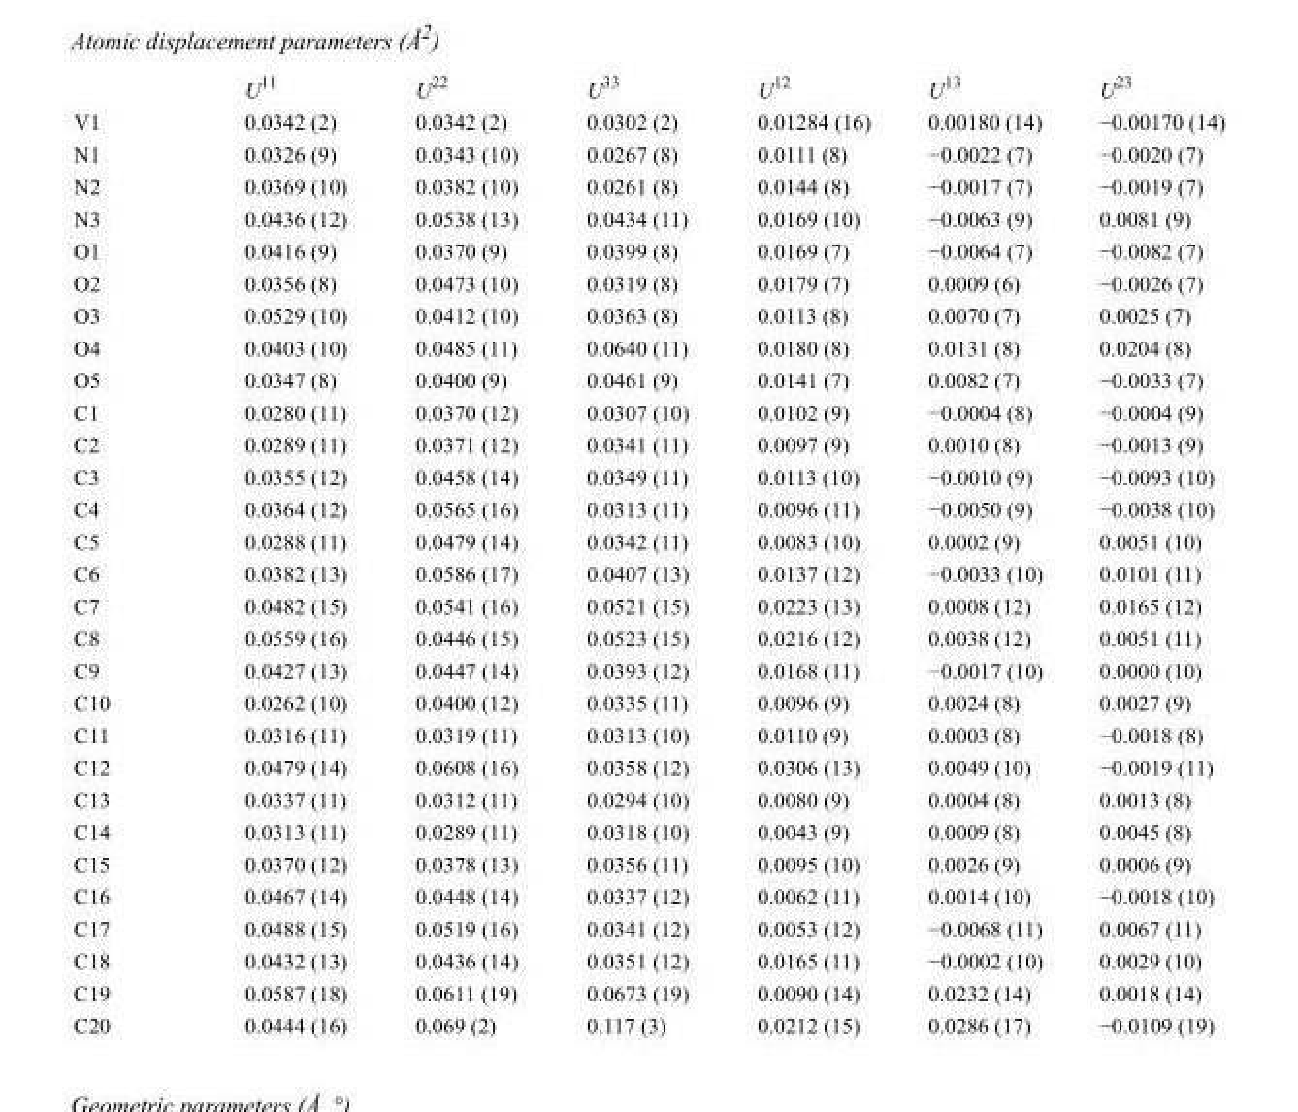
<table><thead><tr><td></td><td>U<sup>11</sup></td><td>U<sup>22</sup></td><td>U<sup>33</sup></td><td>U<sup>12</sup></td><td>U<sup>13</sup></td><td>U<sup>23</sup></td></tr></thead><tbody><tr><td>V1</td><td>0.0342 (2)</td><td>0.0342 (2)</td><td>0.0302 (2)</td><td>0.01284 (16)</td><td>0.00180 (14)</td><td>−0.00170 (14)</td></tr><tr><td>N1</td><td>0.0326 (9)</td><td>0.0343 (10)</td><td>0.0267 (8)</td><td>0.0111 (8)</td><td>−0.0022 (7)</td><td>−0.0020 (7)</td></tr><tr><td>N2</td><td>0.0369 (10)</td><td>0.0382 (10)</td><td>0.0261 (8)</td><td>0.0144 (8)</td><td>−0.0017 (7)</td><td>−0.0019 (7)</td></tr><tr><td>N3</td><td>0.0436 (12)</td><td>0.0538 (13)</td><td>0.0434 (11)</td><td>0.0169 (10)</td><td>−0.0063 (9)</td><td>0.0081 (9)</td></tr><tr><td>O1</td><td>0.0416 (9)</td><td>0.0370 (9)</td><td>0.0399 (8)</td><td>0.0169 (7)</td><td>−0.0064 (7)</td><td>−0.0082 (7)</td></tr><tr><td>O2</td><td>0.0356 (8)</td><td>0.0473 (10)</td><td>0.0319 (8)</td><td>0.0179 (7)</td><td>0.0009 (6)</td><td>−0.0026 (7)</td></tr><tr><td>O3</td><td>0.0529 (10)</td><td>0.0412 (10)</td><td>0.0363 (8)</td><td>0.0113 (8)</td><td>0.0070 (7)</td><td>0.0025 (7)</td></tr><tr><td>O4</td><td>0.0403 (10)</td><td>0.0485 (11)</td><td>0.0640 (11)</td><td>0.0180 (8)</td><td>0.0131 (8)</td><td>0.0204 (8)</td></tr><tr><td>O5</td><td>0.0347 (8)</td><td>0.0400 (9)</td><td>0.0461 (9)</td><td>0.0141 (7)</td><td>0.0082 (7)</td><td>−0.0033 (7)</td></tr><tr><td>C1</td><td>0.0280 (11)</td><td>0.0370 (12)</td><td>0.0307 (10)</td><td>0.0102 (9)</td><td>−0.0004 (8)</td><td>−0.0004 (9)</td></tr><tr><td>C2</td><td>0.0289 (11)</td><td>0.0371 (12)</td><td>0.0341 (11)</td><td>0.0097 (9)</td><td>0.0010 (8)</td><td>−0.0013 (9)</td></tr><tr><td>C3</td><td>0.0355 (12)</td><td>0.0458 (14)</td><td>0.0349 (11)</td><td>0.0113 (10)</td><td>−0.0010 (9)</td><td>−0.0093 (10)</td></tr><tr><td>C4</td><td>0.0364 (12)</td><td>0.0565 (16)</td><td>0.0313 (11)</td><td>0.0096 (11)</td><td>−0.0050 (9)</td><td>−0.0038 (10)</td></tr><tr><td>C5</td><td>0.0288 (11)</td><td>0.0479 (14)</td><td>0.0342 (11)</td><td>0.0083 (10)</td><td>0.0002 (9)</td><td>0.0051 (10)</td></tr><tr><td>C6</td><td>0.0382 (13)</td><td>0.0586 (17)</td><td>0.0407 (13)</td><td>0.0137 (12)</td><td>−0.0033 (10)</td><td>0.0101 (11)</td></tr><tr><td>C7</td><td>0.0482 (15)</td><td>0.0541 (16)</td><td>0.0521 (15)</td><td>0.0223 (13)</td><td>0.0008 (12)</td><td>0.0165 (12)</td></tr><tr><td>C8</td><td>0.0559 (16)</td><td>0.0446 (15)</td><td>0.0523 (15)</td><td>0.0216 (12)</td><td>0.0038 (12)</td><td>0.0051 (11)</td></tr><tr><td>C9</td><td>0.0427 (13)</td><td>0.0447 (14)</td><td>0.0393 (12)</td><td>0.0168 (11)</td><td>−0.0017 (10)</td><td>0.0000 (10)</td></tr><tr><td>C10</td><td>0.0262 (10)</td><td>0.0400 (12)</td><td>0.0335 (11)</td><td>0.0096 (9)</td><td>0.0024 (8)</td><td>0.0027 (9)</td></tr><tr><td>C11</td><td>0.0316 (11)</td><td>0.0319 (11)</td><td>0.0313 (10)</td><td>0.0110 (9)</td><td>0.0003 (8)</td><td>−0.0018 (8)</td></tr><tr><td>C12</td><td>0.0479 (14)</td><td>0.0608 (16)</td><td>0.0358 (12)</td><td>0.0306 (13)</td><td>0.0049 (10)</td><td>−0.0019 (11)</td></tr><tr><td>C13</td><td>0.0337 (11)</td><td>0.0312 (11)</td><td>0.0294 (10)</td><td>0.0080 (9)</td><td>0.0004 (8)</td><td>0.0013 (8)</td></tr><tr><td>C14</td><td>0.0313 (11)</td><td>0.0289 (11)</td><td>0.0318 (10)</td><td>0.0043 (9)</td><td>0.0009 (8)</td><td>0.0045 (8)</td></tr><tr><td>C15</td><td>0.0370 (12)</td><td>0.0378 (13)</td><td>0.0356 (11)</td><td>0.0095 (10)</td><td>0.0026 (9)</td><td>0.0006 (9)</td></tr><tr><td>C16</td><td>0.0467 (14)</td><td>0.0448 (14)</td><td>0.0337 (12)</td><td>0.0062 (11)</td><td>0.0014 (10)</td><td>−0.0018 (10)</td></tr><tr><td>C17</td><td>0.0488 (15)</td><td>0.0519 (16)</td><td>0.0341 (12)</td><td>0.0053 (12)</td><td>−0.0068 (11)</td><td>0.0067 (11)</td></tr><tr><td>C18</td><td>0.0432 (13)</td><td>0.0436 (14)</td><td>0.0351 (12)</td><td>0.0165 (11)</td><td>−0.0002 (10)</td><td>0.0029 (10)</td></tr><tr><td>C19</td><td>0.0587 (18)</td><td>0.0611 (19)</td><td>0.0673 (19)</td><td>0.0090 (14)</td><td>0.0232 (14)</td><td>0.0018 (14)</td></tr><tr><td>C20</td><td>0.0444 (16)</td><td>0.069 (2)</td><td>0.117 (3)</td><td>0.0212 (15)</td><td>0.0286 (17)</td><td>−0.0109 (19)</td></tr></tbody></table>